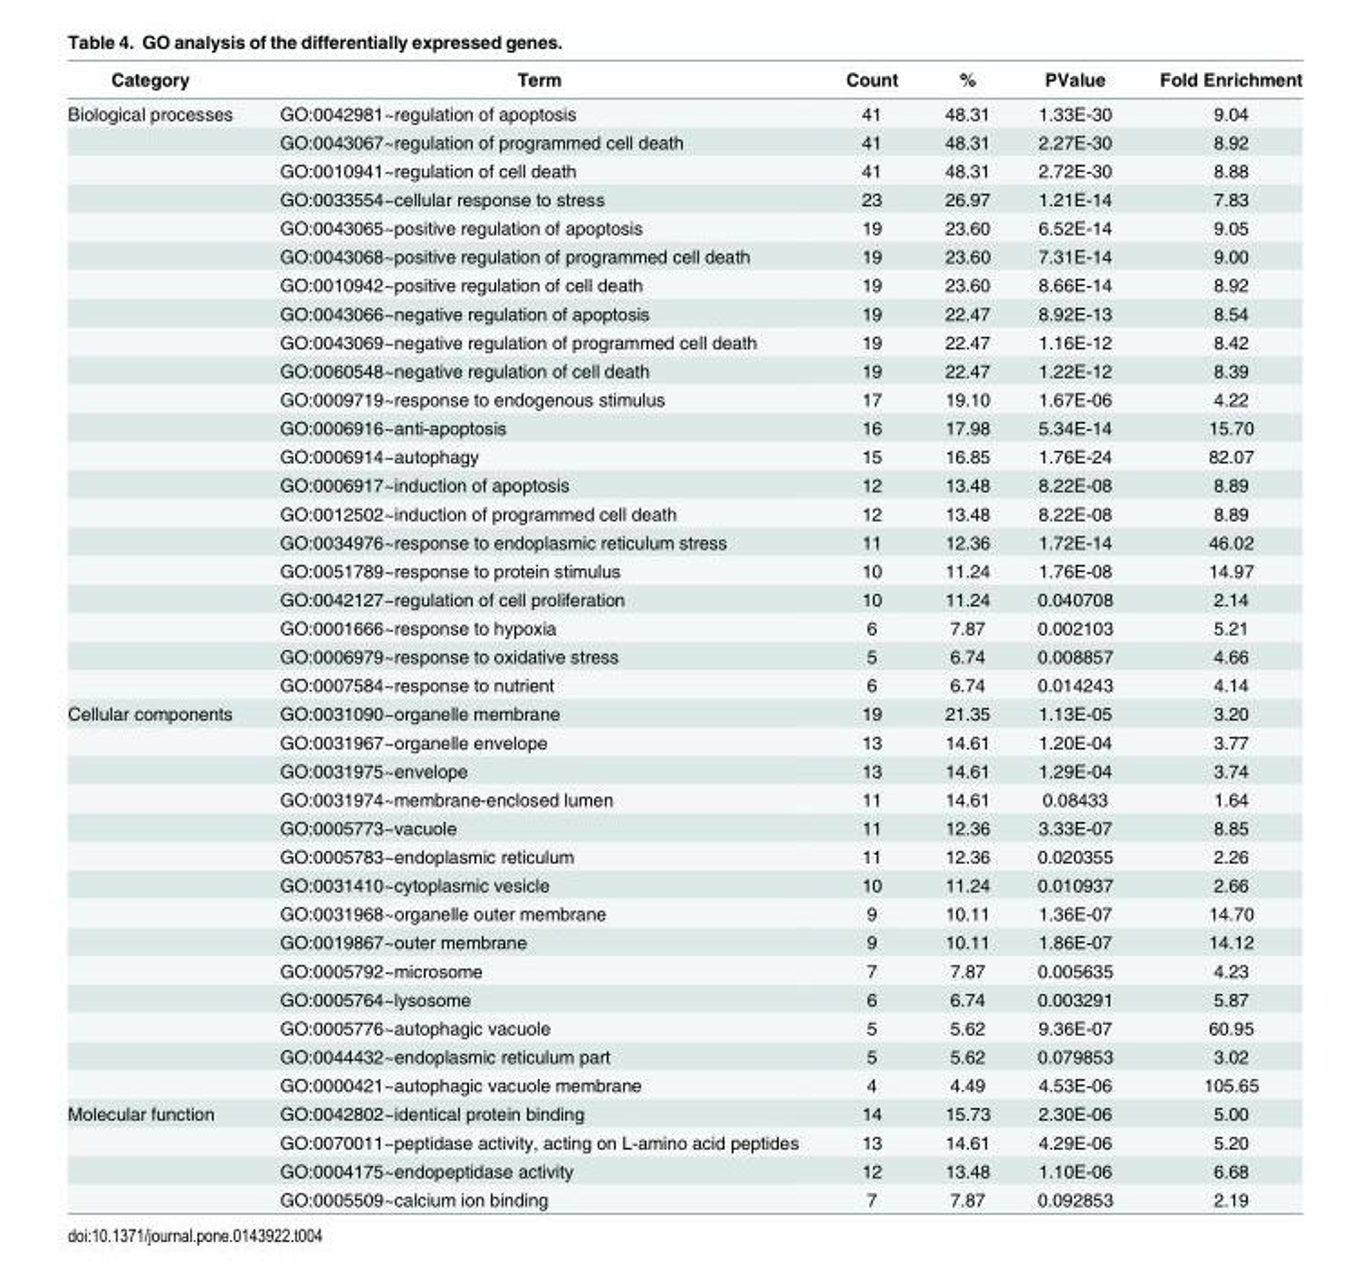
<table><thead><tr><td>Category</td><td>Term</td><td>Count</td><td>%</td><td>PValue</td><td>Fold Enrichment</td></tr></thead><tbody><tr><td rowspan="21">Biological processes</td><td>GO:0042981~regulation of apoptosis</td><td>41</td><td>48.31</td><td>1.33E-30</td><td>9.04</td></tr><tr><td>GO:0043067~regulation of programmed cell death</td><td>41</td><td>48.31</td><td>2.27E-30</td><td>8.92</td></tr><tr><td>GO:0010941~regulation of cell death</td><td>41</td><td>48.31</td><td>2.72E-30</td><td>8.88</td></tr><tr><td>GO:0033554~cellular response to stress</td><td>23</td><td>26.97</td><td>1.21E-14</td><td>7.83</td></tr><tr><td>GO:0043065~positive regulation of apoptosis</td><td>19</td><td>23.60</td><td>6.52E-14</td><td>9.05</td></tr><tr><td>GO:0043068~positive regulation of programmed cell death</td><td>19</td><td>23.60</td><td>7.31E-14</td><td>9.00</td></tr><tr><td>GO:0010942~positive regulation of cell death</td><td>19</td><td>23.60</td><td>8.66E-14</td><td>8.92</td></tr><tr><td>GO:0043066~negative regulation of apoptosis</td><td>19</td><td>22.47</td><td>8.92E-13</td><td>8.54</td></tr><tr><td>GO:0043069~negative regulation of programmed cell death</td><td>19</td><td>22.47</td><td>1.16E-12</td><td>8.42</td></tr><tr><td>GO:0060548~negative regulation of cell death</td><td>19</td><td>22.47</td><td>1.22E-12</td><td>8.39</td></tr><tr><td>GO:0009719~response to endogenous stimulus</td><td>17</td><td>19.10</td><td>1.67E-06</td><td>4.22</td></tr><tr><td>GO:0006916~anti-apoptosis</td><td>16</td><td>17.98</td><td>5.34E-14</td><td>15.70</td></tr><tr><td>GO:0006914~autophagy</td><td>15</td><td>16.85</td><td>1.76E-24</td><td>82.07</td></tr><tr><td>GO:0006917~induction of apoptosis</td><td>12</td><td>13.48</td><td>8.22E-08</td><td>8.89</td></tr><tr><td>GO:0012502~induction of programmed cell death</td><td>12</td><td>13.48</td><td>8.22E-08</td><td>8.89</td></tr><tr><td>GO:0034976~response to endoplasmic reticulum stress</td><td>11</td><td>12.36</td><td>1.72E-14</td><td>46.02</td></tr><tr><td>GO:0051789~response to protein stimulus</td><td>10</td><td>11.24</td><td>1.76E-08</td><td>14.97</td></tr><tr><td>GO:0042127~regulation of cell proliferation</td><td>10</td><td>11.24</td><td>0.040708</td><td>2.14</td></tr><tr><td>GO:0001666~response to hypoxia</td><td>6</td><td>7.87</td><td>0.002103</td><td>5.21</td></tr><tr><td>GO:0006979~response to oxidative stress</td><td>5</td><td>6.74</td><td>0.008857</td><td>4.66</td></tr><tr><td>GO:0007584~response to nutrient</td><td>6</td><td>6.74</td><td>0.014243</td><td>4.14</td></tr><tr><td rowspan="14">Cellular components</td><td>GO:0031090~organelle membrane</td><td>19</td><td>21.35</td><td>1.13E-05</td><td>3.20</td></tr><tr><td>GO:0031967~organelle envelope</td><td>13</td><td>14.61</td><td>1.20E-04</td><td>3.77</td></tr><tr><td>GO:0031975~envelope</td><td>13</td><td>14.61</td><td>1.29E-04</td><td>3.74</td></tr><tr><td>GO:0031974~membrane-enclosed lumen</td><td>11</td><td>14.61</td><td>0.08433</td><td>1.64</td></tr><tr><td>GO:0005773~vacuole</td><td>11</td><td>12.36</td><td>3.33E-07</td><td>8.85</td></tr><tr><td>GO:0005783~endoplasmic reticulum</td><td>11</td><td>12.36</td><td>0.020355</td><td>2.26</td></tr><tr><td>GO:0031410~cytoplasmic vesicle</td><td>10</td><td>11.24</td><td>0.010937</td><td>2.66</td></tr><tr><td>GO:0031968~organelle outer membrane</td><td>9</td><td>10.11</td><td>1.36E-07</td><td>14.70</td></tr><tr><td>GO:0019867~outer membrane</td><td>9</td><td>10.11</td><td>1.86E-07</td><td>14.12</td></tr><tr><td>GO:0005792~microsome</td><td>7</td><td>7.87</td><td>0.005635</td><td>4.23</td></tr><tr><td>GO:0005764~lysosome</td><td>6</td><td>6.74</td><td>0.003291</td><td>5.87</td></tr><tr><td>GO:0005776~autophagic vacuole</td><td>5</td><td>5.62</td><td>9.36E-07</td><td>60.95</td></tr><tr><td>GO:0044432~endoplasmic reticulum part</td><td>5</td><td>5.62</td><td>0.079853</td><td>3.02</td></tr><tr><td>GO:0000421~autophagic vacuole membrane</td><td>4</td><td>4.49</td><td>4.53E-06</td><td>105.65</td></tr><tr><td rowspan="4">Molecular function</td><td>GO:0042802~identical protein binding</td><td>14</td><td>15.73</td><td>2.30E-06</td><td>5.00</td></tr><tr><td>GO:0070011~peptidase activity, acting on L-amino acid peptides</td><td>13</td><td>14.61</td><td>4.29E-06</td><td>5.20</td></tr><tr><td>GO:0004175~endopeptidase activity</td><td>12</td><td>13.48</td><td>1.10E-06</td><td>6.68</td></tr><tr><td>GO:0005509~calcium ion binding</td><td>7</td><td>7.87</td><td>0.092853</td><td>2.19</td></tr></tbody></table>